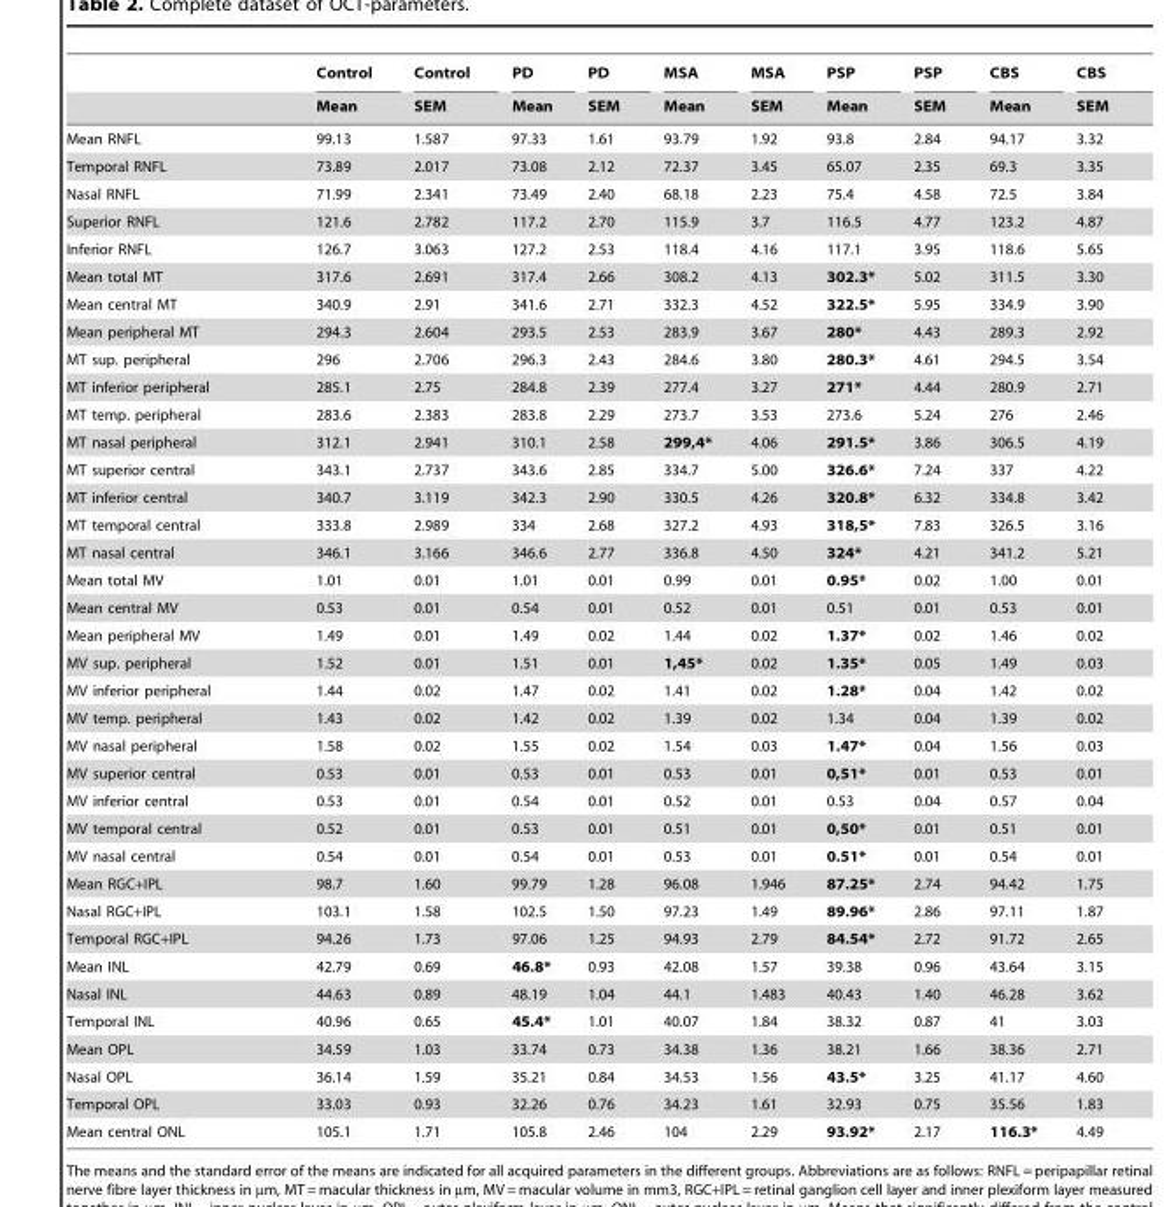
<table><thead><tr><td rowspan="2"></td><td rowspan="2">Control Mean</td><td rowspan="2">Control SEM</td><td rowspan="2">PD Mean</td><td rowspan="2">PD SEM</td><td rowspan="2">MSA Mean</td><td rowspan="2">MSA SEM</td><td rowspan="2">PSP Mean</td><td rowspan="2">PSP SEM</td><td rowspan="2">CBS Mean</td><td rowspan="2">CBS SEM</td></tr><tr></tr></thead><tbody><tr><td>Mean RNFL</td><td>99.13</td><td>1.587</td><td>97.33</td><td>1.61</td><td>93.79</td><td>1.92</td><td>93.8</td><td>2.84</td><td>94.17</td><td>3.32</td></tr><tr><td>Temporal RNFL</td><td>73.89</td><td>2.017</td><td>73.08</td><td>2.12</td><td>72.37</td><td>3.45</td><td>65.07</td><td>2.35</td><td>69.3</td><td>3.35</td></tr><tr><td>Nasal RNFL</td><td>71.99</td><td>2.341</td><td>73.49</td><td>2.40</td><td>68.18</td><td>2.23</td><td>75.4</td><td>4.58</td><td>72.5</td><td>3.84</td></tr><tr><td>Superior RNFL</td><td>121.6</td><td>2.782</td><td>117.2</td><td>2.70</td><td>115.9</td><td>3.7</td><td>116.5</td><td>4.77</td><td>123.2</td><td>4.87</td></tr><tr><td>Inferior RNFL</td><td>126.7</td><td>3.063</td><td>127.2</td><td>2.53</td><td>118.4</td><td>4.16</td><td>117.1</td><td>3.95</td><td>118.6</td><td>5.65</td></tr><tr><td>Mean total MT</td><td>317.6</td><td>2.691</td><td>317.4</td><td>2.66</td><td>308.2</td><td>4.13</td><td>302.3*</td><td>5.02</td><td>311.5</td><td>3.30</td></tr><tr><td>Mean central MT</td><td>340.9</td><td>2.91</td><td>341.6</td><td>2.71</td><td>332.3</td><td>4.52</td><td>322.5*</td><td>5.95</td><td>334.9</td><td>3.90</td></tr><tr><td>Mean peripheral MT</td><td>294.3</td><td>2.604</td><td>293.5</td><td>2.53</td><td>283.9</td><td>3.67</td><td>280*</td><td>4.43</td><td>289.3</td><td>2.92</td></tr><tr><td>MT sup. peripheral</td><td>296</td><td>2.706</td><td>296.3</td><td>2.43</td><td>284.6</td><td>3.80</td><td>280.3*</td><td>4.61</td><td>294.5</td><td>3.54</td></tr><tr><td>MT inferior peripheral</td><td>285.1</td><td>2.75</td><td>284.8</td><td>2.39</td><td>277.4</td><td>3.27</td><td>271*</td><td>4.44</td><td>280.9</td><td>2.71</td></tr><tr><td>MT temp. peripheral</td><td>283.6</td><td>2.383</td><td>283.8</td><td>2.29</td><td>273.7</td><td>3.53</td><td>273.6</td><td>5.24</td><td>276</td><td>2.46</td></tr><tr><td>MT nasal peripheral</td><td>312.1</td><td>2.941</td><td>310.1</td><td>2.58</td><td>299,4*</td><td>4.06</td><td>291.5*</td><td>3.86</td><td>306.5</td><td>4.19</td></tr><tr><td>MT superior central</td><td>343.1</td><td>2.737</td><td>343.6</td><td>2.85</td><td>334.7</td><td>5.00</td><td>326.6*</td><td>7.24</td><td>337</td><td>4.22</td></tr><tr><td>MT inferior central</td><td>340.7</td><td>3.119</td><td>342.3</td><td>2.90</td><td>330.5</td><td>4.26</td><td>320.8*</td><td>6.32</td><td>334.8</td><td>3.42</td></tr><tr><td>MT temporal central</td><td>333.8</td><td>2.989</td><td>334</td><td>2.68</td><td>327.2</td><td>4.93</td><td>318,5*</td><td>7.83</td><td>326.5</td><td>3.16</td></tr><tr><td>MT nasal central</td><td>346.1</td><td>3.166</td><td>346.6</td><td>2.77</td><td>336.8</td><td>4.50</td><td>324*</td><td>4.21</td><td>341.2</td><td>5.21</td></tr><tr><td>Mean total MV</td><td>1.01</td><td>0.01</td><td>1.01</td><td>0.01</td><td>0.99</td><td>0.01</td><td>0.95*</td><td>0.02</td><td>1.00</td><td>0.01</td></tr><tr><td>Mean central MV</td><td>0.53</td><td>0.01</td><td>0.54</td><td>0.01</td><td>0.52</td><td>0.01</td><td>0.51</td><td>0.01</td><td>0.53</td><td>0.01</td></tr><tr><td>Mean peripheral MV</td><td>1.49</td><td>0.01</td><td>1.49</td><td>0.02</td><td>1.44</td><td>0.02</td><td>1.37*</td><td>0.02</td><td>1.46</td><td>0.02</td></tr><tr><td>MV sup. peripheral</td><td>1.52</td><td>0.01</td><td>1.51</td><td>0.01</td><td>1,45*</td><td>0.02</td><td>1.35*</td><td>0.05</td><td>1.49</td><td>0.03</td></tr><tr><td>MV inferior peripheral</td><td>1.44</td><td>0.02</td><td>1.47</td><td>0.02</td><td>1.41</td><td>0.02</td><td>1.28*</td><td>0.04</td><td>1.42</td><td>0.02</td></tr><tr><td>MV temp. peripheral</td><td>1.43</td><td>0.02</td><td>1.42</td><td>0.02</td><td>1.39</td><td>0.02</td><td>1.34</td><td>0.04</td><td>1.39</td><td>0.02</td></tr><tr><td>MV nasal peripheral</td><td>1.58</td><td>0.02</td><td>1.55</td><td>0.02</td><td>1.54</td><td>0.03</td><td>1.47*</td><td>0.04</td><td>1.56</td><td>0.03</td></tr><tr><td>MV superior central</td><td>0.53</td><td>0.01</td><td>0.53</td><td>0.01</td><td>0.53</td><td>0.01</td><td>0,51*</td><td>0.01</td><td>0.53</td><td>0.01</td></tr><tr><td>MV inferior central</td><td>0.53</td><td>0.01</td><td>0.54</td><td>0.01</td><td>0.52</td><td>0.01</td><td>0.53</td><td>0.04</td><td>0.57</td><td>0.04</td></tr><tr><td>MV temporal central</td><td>0.52</td><td>0.01</td><td>0.53</td><td>0.01</td><td>0.51</td><td>0.01</td><td>0,50*</td><td>0.01</td><td>0.51</td><td>0.01</td></tr><tr><td>MV nasal central</td><td>0.54</td><td>0.01</td><td>0.54</td><td>0.01</td><td>0.53</td><td>0.01</td><td>0.51*</td><td>0.01</td><td>0.54</td><td>0.01</td></tr><tr><td>Mean RGC+IPL</td><td>98.7</td><td>1.60</td><td>99.79</td><td>1.28</td><td>96.08</td><td>1.946</td><td>87.25*</td><td>2.74</td><td>94.42</td><td>1.75</td></tr><tr><td>Nasal RGC+IPL</td><td>103.1</td><td>1.58</td><td>102.5</td><td>1.50</td><td>97.23</td><td>1.49</td><td>89.96*</td><td>2.86</td><td>97.11</td><td>1.87</td></tr><tr><td>Temporal RGC+IPL</td><td>94.26</td><td>1.73</td><td>97.06</td><td>1.25</td><td>94.93</td><td>2.79</td><td>84.54*</td><td>2.72</td><td>91.72</td><td>2.65</td></tr><tr><td>Mean INL</td><td>42.79</td><td>0.69</td><td>46.8*</td><td>0.93</td><td>42.08</td><td>1.57</td><td>39.38</td><td>0.96</td><td>43.64</td><td>3.15</td></tr><tr><td>Nasal INL</td><td>44.63</td><td>0.89</td><td>48.19</td><td>1.04</td><td>44.1</td><td>1.483</td><td>40.43</td><td>1.40</td><td>46.28</td><td>3.62</td></tr><tr><td>Temporal INL</td><td>40.96</td><td>0.65</td><td>45.4*</td><td>1.01</td><td>40.07</td><td>1.84</td><td>38.32</td><td>0.87</td><td>41</td><td>3.03</td></tr><tr><td>Mean OPL</td><td>34.59</td><td>1.03</td><td>33.74</td><td>0.73</td><td>34.38</td><td>1.36</td><td>38.21</td><td>1.66</td><td>38.36</td><td>2.71</td></tr><tr><td>Nasal OPL</td><td>36.14</td><td>1.59</td><td>35.21</td><td>0.84</td><td>34.53</td><td>1.56</td><td>43.5*</td><td>3.25</td><td>41.17</td><td>4.60</td></tr><tr><td>Temporal OPL</td><td>33.03</td><td>0.93</td><td>32.26</td><td>0.76</td><td>34.23</td><td>1.61</td><td>32.93</td><td>0.75</td><td>35.56</td><td>1.83</td></tr><tr><td>Mean central ONL</td><td>105.1</td><td>1.71</td><td>105.8</td><td>2.46</td><td>104</td><td>2.29</td><td>93.92*</td><td>2.17</td><td>116.3*</td><td>4.49</td></tr></tbody></table>